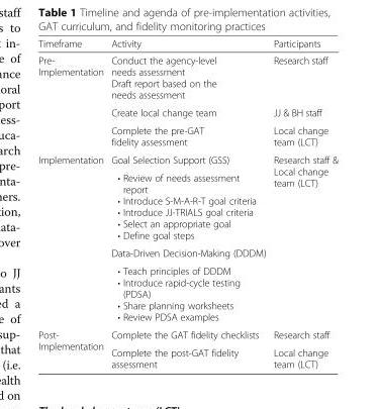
<table><thead><tr><td>Timeframe</td><td>Activity</td><td>Participants</td></tr></thead><tbody><tr><td rowspan="3">Pre- Implementation</td><td>Conduct the agency-level needs assessment Draft report based on the needs assessment</td><td>Research staff</td></tr><tr><td>Create local change team</td><td>JJ &amp; BH staff</td></tr><tr><td>Complete the pre-GAT fidelity assessment</td><td>Local change team (LCT)</td></tr><tr><td rowspan="4">Implementation</td><td>Goal Selection Support (GSS)</td><td rowspan="4">Research staff &amp; Local change team (LCT)</td></tr><tr><td>• Review of needs assessment report • Introduce S-M-A-R-T goal criteria • Introduce JJ-TRIALS goal criteria • Select an appropriate goal • Define goal steps</td></tr><tr><td>Data-Driven Decision-Making (DDDM)</td></tr><tr><td>• Teach principles of DDDM • Introduce rapid-cycle testing (PDSA) • Share planning worksheets • Review PDSA examples</td></tr><tr><td rowspan="2">Post- Implementation</td><td>Complete the GAT fidelity checklists</td><td>Research staff</td></tr><tr><td>Complete the post-GAT fidelity assessment</td><td>Local change team (LCT)</td></tr></tbody></table>